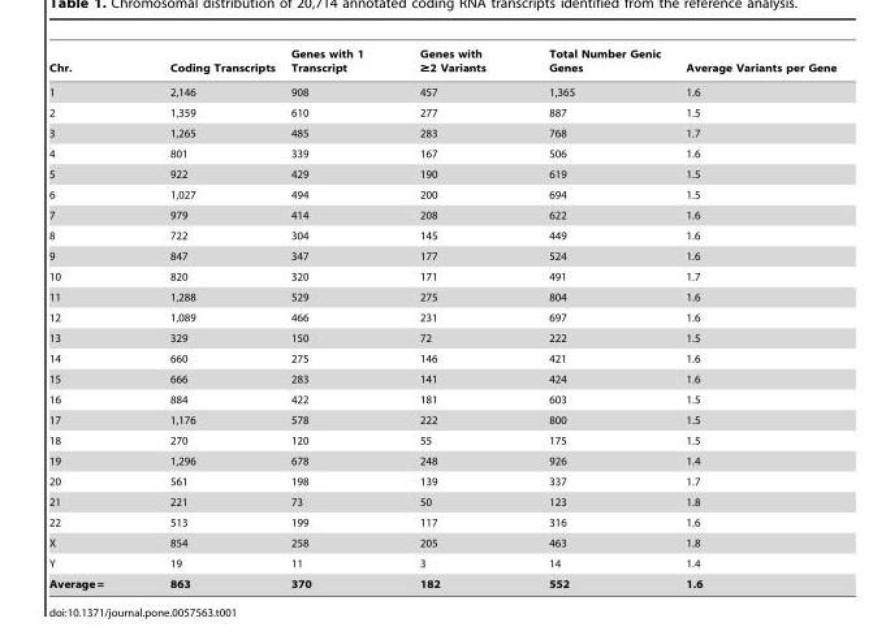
<table><thead><tr><td>Chr.</td><td>Coding Transcripts</td><td>Genes with 1 Transcript</td><td>Genes with ≥2 Variants</td><td>Total Number Genic Genes</td><td>Average Variants per Gene</td></tr></thead><tbody><tr><td>1</td><td>2,146</td><td>908</td><td>457</td><td>1,365</td><td>1.6</td></tr><tr><td>2</td><td>1,359</td><td>610</td><td>277</td><td>887</td><td>1.5</td></tr><tr><td>3</td><td>1,265</td><td>485</td><td>283</td><td>768</td><td>1.7</td></tr><tr><td>4</td><td>801</td><td>339</td><td>167</td><td>506</td><td>1.6</td></tr><tr><td>5</td><td>922</td><td>429</td><td>190</td><td>619</td><td>1.5</td></tr><tr><td>6</td><td>1,027</td><td>494</td><td>200</td><td>694</td><td>1.5</td></tr><tr><td>7</td><td>979</td><td>414</td><td>208</td><td>622</td><td>1.6</td></tr><tr><td>8</td><td>722</td><td>304</td><td>145</td><td>449</td><td>1.6</td></tr><tr><td>9</td><td>847</td><td>347</td><td>177</td><td>524</td><td>1.6</td></tr><tr><td>10</td><td>820</td><td>320</td><td>171</td><td>491</td><td>1.7</td></tr><tr><td>11</td><td>1,288</td><td>529</td><td>275</td><td>804</td><td>1.6</td></tr><tr><td>12</td><td>1,089</td><td>466</td><td>231</td><td>697</td><td>1.6</td></tr><tr><td>13</td><td>329</td><td>150</td><td>72</td><td>222</td><td>1.5</td></tr><tr><td>14</td><td>660</td><td>275</td><td>146</td><td>421</td><td>1.6</td></tr><tr><td>15</td><td>666</td><td>283</td><td>141</td><td>424</td><td>1.6</td></tr><tr><td>16</td><td>884</td><td>422</td><td>181</td><td>603</td><td>1.5</td></tr><tr><td>17</td><td>1,176</td><td>578</td><td>222</td><td>800</td><td>1.5</td></tr><tr><td>18</td><td>270</td><td>120</td><td>55</td><td>175</td><td>1.5</td></tr><tr><td>19</td><td>1,296</td><td>678</td><td>248</td><td>926</td><td>1.4</td></tr><tr><td>20</td><td>561</td><td>198</td><td>139</td><td>337</td><td>1.7</td></tr><tr><td>21</td><td>221</td><td>73</td><td>50</td><td>123</td><td>1.8</td></tr><tr><td>22</td><td>513</td><td>199</td><td>117</td><td>316</td><td>1.6</td></tr><tr><td>X</td><td>854</td><td>258</td><td>205</td><td>463</td><td>1.8</td></tr><tr><td>Y</td><td>19</td><td>11</td><td>3</td><td>14</td><td>1.4</td></tr><tr><td>Average =</td><td>863</td><td>370</td><td>182</td><td>552</td><td>1.6</td></tr></tbody></table>